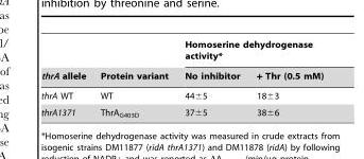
<table><thead><tr><td rowspan="2">thrA allele</td><td rowspan="2">Protein variant</td><td colspan="2">Homoserine dehydrogenase activity*</td></tr><tr><td>No inhibitor</td><td>+ Thr (0.5 mM)</td></tr></thead><tbody><tr><td>thrA WT</td><td>WT</td><td>44±5</td><td>18±3</td></tr><tr><td>thrA1371</td><td>ThrA<sub>G403D</sub></td><td>37±5</td><td>38±6</td></tr></tbody></table>